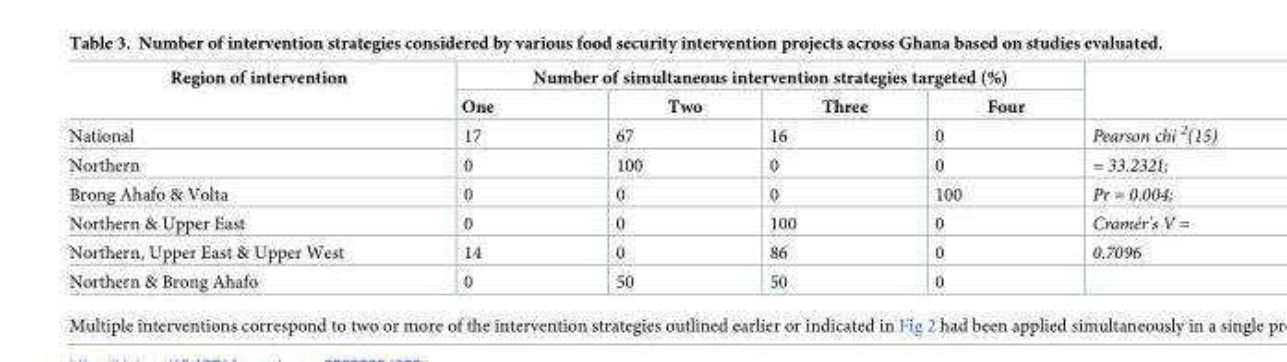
<table><thead><tr><td rowspan="2">Region of intervention</td><td colspan="4">Number of simultaneous intervention strategies targeted (%)</td><td rowspan="2"></td></tr><tr><td>One</td><td>Two</td><td>Three</td><td>Four</td></tr></thead><tbody><tr><td>National</td><td>17</td><td>67</td><td>16</td><td>0</td><td>Pearson chi <sup>2</sup>(15)</td></tr><tr><td>Northern</td><td>0</td><td>100</td><td>0</td><td>0</td><td>= 33.2321;</td></tr><tr><td>Brong Ahafo &amp; Volta</td><td>0</td><td>0</td><td>0</td><td>100</td><td>Pr = 0.004;</td></tr><tr><td>Northern &amp; Upper East</td><td>0</td><td>0</td><td>100</td><td>0</td><td>Cramér&#x27;s V =</td></tr><tr><td>Northern, Upper East &amp; Upper West</td><td>14</td><td>0</td><td>86</td><td>0</td><td>0.7096</td></tr><tr><td>Northern &amp; Brong Ahafo</td><td>0</td><td>50</td><td>50</td><td>0</td><td></td></tr></tbody></table>